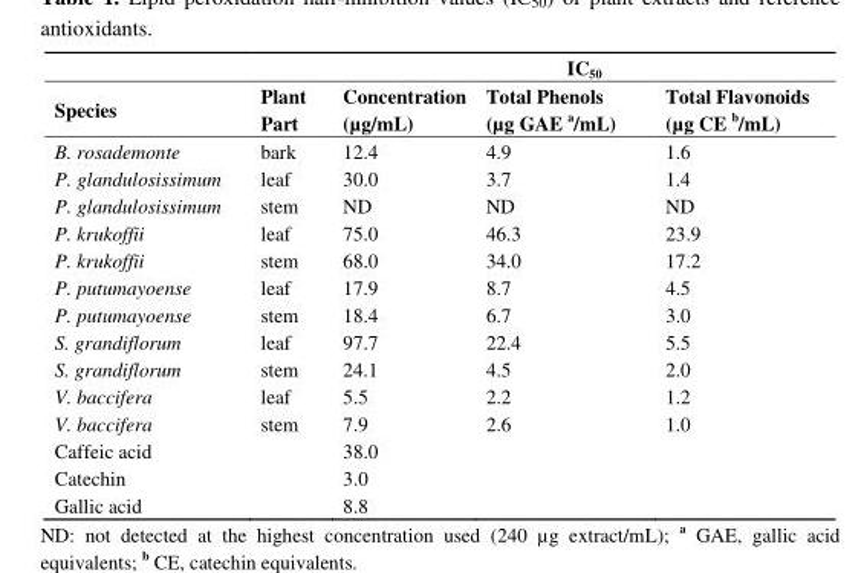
<table><thead><tr><td rowspan="2">Species</td><td rowspan="2">Plant Part</td><td colspan="3">IC<sub>50</sub></td></tr><tr><td>Concentration (µg/mL)</td><td>Total Phenols (µg GAE a/mL)</td><td>Total Flavonoids (µg CE b/mL)</td></tr></thead><tbody><tr><td>B. rosademonte</td><td>bark</td><td>12.4</td><td>4.9</td><td>1.6</td></tr><tr><td>P. glandulosissimum</td><td>leaf</td><td>30.0</td><td>3.7</td><td>1.4</td></tr><tr><td>P. glandulosissimum</td><td>stem</td><td>ND</td><td>ND</td><td>ND</td></tr><tr><td>P. krukoffii</td><td>leaf</td><td>75.0</td><td>46.3</td><td>23.9</td></tr><tr><td>P. krukoffii</td><td>stem</td><td>68.0</td><td>34.0</td><td>17.2</td></tr><tr><td>P. putumayoense</td><td>leaf</td><td>17.9</td><td>8.7</td><td>4.5</td></tr><tr><td>P. putumayoense</td><td>stem</td><td>18.4</td><td>6.7</td><td>3.0</td></tr><tr><td>S. grandiflorum</td><td>leaf</td><td>97.7</td><td>22.4</td><td>5.5</td></tr><tr><td>S. grandiflorum</td><td>stem</td><td>24.1</td><td>4.5</td><td>2.0</td></tr><tr><td>V. baccifera</td><td>leaf</td><td>5.5</td><td>2.2</td><td>1.2</td></tr><tr><td>V. baccifera</td><td>stem</td><td>7.9</td><td>2.6</td><td>1.0</td></tr><tr><td>Caffeic acid</td><td></td><td>38.0</td><td></td><td></td></tr><tr><td>Catechin</td><td></td><td>3.0</td><td></td><td></td></tr><tr><td>Gallic acid</td><td></td><td>8.8</td><td></td><td></td></tr></tbody></table>